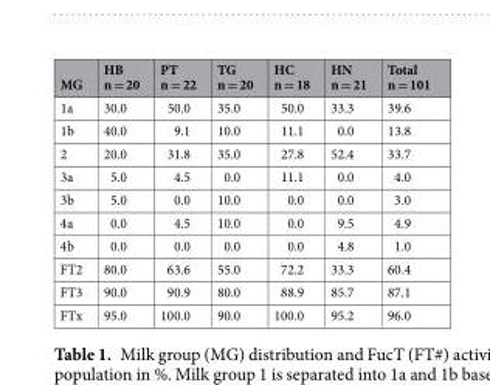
<table><thead><tr><td>MG</td><td>HB n = 20</td><td>PT n = 22</td><td>TG n = 20</td><td>HC n = 18</td><td>HN n = 21</td><td>Total n = 101</td></tr></thead><tbody><tr><td>1a</td><td>30.0</td><td>50.0</td><td>35.0</td><td>50.0</td><td>33.3</td><td>39.6</td></tr><tr><td>1b</td><td>40.0</td><td>9.1</td><td>10.0</td><td>11.1</td><td>0.0</td><td>13.8</td></tr><tr><td>2</td><td>20.0</td><td>31.8</td><td>35.0</td><td>27.8</td><td>52.4</td><td>33.7</td></tr><tr><td>3a</td><td>5.0</td><td>4.5</td><td>0.0</td><td>11.1</td><td>0.0</td><td>4.0</td></tr><tr><td>3b</td><td>5.0</td><td>0.0</td><td>10.0</td><td>0.0</td><td>0.0</td><td>3.0</td></tr><tr><td>4a</td><td>0.0</td><td>4.5</td><td>10.0</td><td>0.0</td><td>9.5</td><td>4.9</td></tr><tr><td>4b</td><td>0.0</td><td>0.0</td><td>0.0</td><td>0.0</td><td>4.8</td><td>1.0</td></tr><tr><td>FT2</td><td>80.0</td><td>63.6</td><td>55.0</td><td>72.2</td><td>33.3</td><td>60.4</td></tr><tr><td>FT3</td><td>90.0</td><td>90.9</td><td>80.0</td><td>88.9</td><td>85.7</td><td>87.1</td></tr><tr><td>FTx</td><td>95.0</td><td>100.0</td><td>90.0</td><td>100.0</td><td>95.2</td><td>96.0</td></tr></tbody></table>